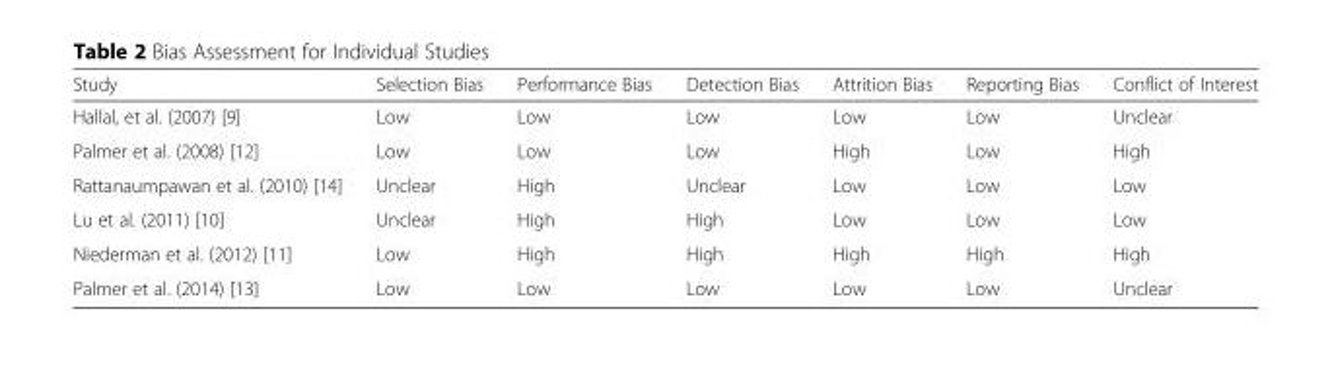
<table><thead><tr><td>Study</td><td>Selection Bias</td><td>Performance Bias</td><td>Detection Bias</td><td>Attrition Bias</td><td>Reporting Bias</td><td>Conflict of Interest</td></tr></thead><tbody><tr><td>Hallal, et al. (2007) [9]</td><td>Low</td><td>Low</td><td>Low</td><td>Low</td><td>Low</td><td>Unclear</td></tr><tr><td>Palmer et al. (2008) [12]</td><td>Low</td><td>Low</td><td>Low</td><td>High</td><td>Low</td><td>High</td></tr><tr><td>Rattanaumpawan et al. (2010) [14]</td><td>Unclear</td><td>High</td><td>Unclear</td><td>Low</td><td>Low</td><td>Low</td></tr><tr><td>Lu et al. (2011) [10]</td><td>Unclear</td><td>High</td><td>High</td><td>Low</td><td>Low</td><td>Low</td></tr><tr><td>Niederman et al. (2012) [11]</td><td>Low</td><td>High</td><td>High</td><td>High</td><td>High</td><td>High</td></tr><tr><td>Palmer et al. (2014) [13]</td><td>Low</td><td>Low</td><td>Low</td><td>Low</td><td>Low</td><td>Unclear</td></tr></tbody></table>